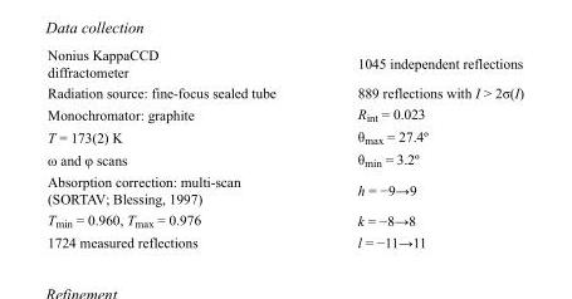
<table><tbody><tr><td>Nonius KappaCCD diffractometer</td><td>1045 independent reflections</td></tr><tr><td>Radiation source: fine-focus sealed tube</td><td>889 reflections with I &gt; 2σ(I)</td></tr><tr><td>Monochromator: graphite</td><td>R<sub>int</sub> = 0.023</td></tr><tr><td>T = 173(2) K</td><td>θ<sub>max</sub> = 27.4º</td></tr><tr><td>ω and φ scans</td><td>θ<sub>min</sub> = 3.2º</td></tr><tr><td>Absorption correction: multi-scan (SORTAV; Blessing, 1997)</td><td>h = −9→9</td></tr><tr><td>T<sub>min</sub> = 0.960, T<sub>max</sub> = 0.976</td><td>k = −8→8</td></tr><tr><td>1724 measured reflections</td><td>l = −11→11</td></tr></tbody></table>